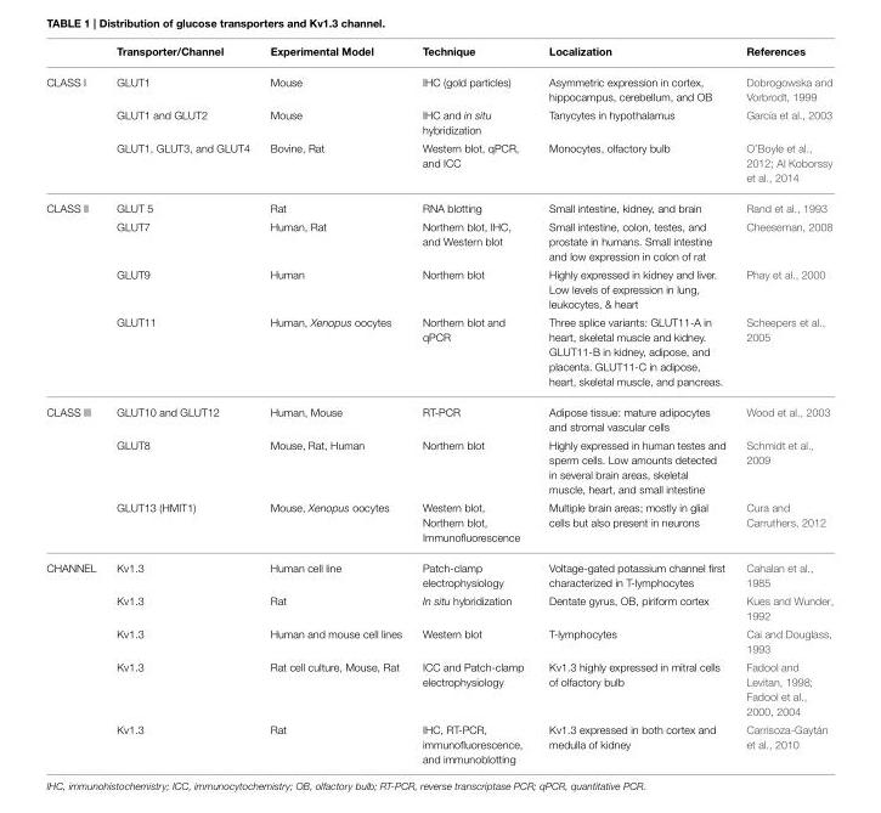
<table><thead><tr><td></td><td>Transporter/Channel</td><td>Experimental Model</td><td>Technique</td><td>Localization</td><td>References</td></tr></thead><tbody><tr><td rowspan="3">CLASS I</td><td>GLUT1</td><td>Mouse</td><td>IHC (gold particles)</td><td>Asymmetric expression in cortex, hippocampus, cerebellum, and OB</td><td>Dobrogowska and Vorbrodt, 1999</td></tr><tr><td>GLUT1 and GLUT2</td><td>Mouse</td><td>IHC and in situ hybridization</td><td>Tanycytes in hypothalamus</td><td>García et al., 2003</td></tr><tr><td>GLUT1, GLUT3, and GLUT4</td><td>Bovine, Rat</td><td>Western blot, qPCR, and ICC</td><td>Monocytes, olfactory bulb</td><td>O’Boyle et al., 2012; Al Koborssy et al., 2014</td></tr><tr><td rowspan="4">CLASS II</td><td>GLUT 5</td><td>Rat</td><td>RNA blotting</td><td>Small intestine, kidney, and brain</td><td>Rand et al., 1993</td></tr><tr><td>GLUT7</td><td>Human, Rat</td><td>Northern blot, IHC, and Western blot</td><td>Small intestine, colon, testes, and prostate in humans. Small intestine and low expression in colon of rat</td><td>Cheeseman, 2008</td></tr><tr><td>GLUT9</td><td>Human</td><td>Northern blot</td><td>Highly expressed in kidney and liver. Low levels of expression in lung, leukocytes, &amp; heart</td><td>Phay et al., 2000</td></tr><tr><td>GLUT11</td><td>Human, Xenopus oocytes</td><td>Northern blot and qPCR</td><td>Three splice variants: GLUT11-A in heart, skeletal muscle and kidney. GLUT11-B in kidney, adipose, and placenta. GLUT11-C in adipose, heart, skeletal muscle, and pancreas.</td><td>Scheepers et al., 2005</td></tr><tr><td rowspan="3">CLASS III</td><td>GLUT10 and GLUT12</td><td>Human, Mouse</td><td>RT-PCR</td><td>Adipose tissue: mature adipocytes and stromal vascular cells</td><td>Wood et al., 2003</td></tr><tr><td>GLUT8</td><td>Mouse, Rat, Human</td><td>Northern blot</td><td>Highly expressed in human testes and sperm cells. Low amounts detected in several brain areas, skeletal muscle, heart, and small intestine</td><td>Schmidt et al., 2009</td></tr><tr><td>GLUT13 (HMIT1)</td><td>Mouse, Xenopus oocytes</td><td>Western blot, Northern blot, Immunofluorescence</td><td>Multiple brain areas; mostly in glial cells but also present in neurons</td><td>Cura and Carruthers, 2012</td></tr><tr><td rowspan="5">CHANNEL</td><td>Kv1.3</td><td>Human cell line</td><td>Patch-clamp electrophysiology</td><td>Voltage-gated potassium channel first characterized in T-lymphocytes</td><td>Cahalan et al., 1985</td></tr><tr><td>Kv1.3</td><td>Rat</td><td>In situ hybridization</td><td>Dentate gyrus, OB, piriform cortex</td><td>Kues and Wunder, 1992</td></tr><tr><td>Kv1.3</td><td>Human and mouse cell lines</td><td>Western blot</td><td>T-lymphocytes</td><td>Cai and Douglass, 1993</td></tr><tr><td>Kv1.3</td><td>Rat cell culture, Mouse, Rat</td><td>ICC and Patch-clamp electrophysiology</td><td>Kv1.3 highly expressed in mitral cells of olfactory bulb</td><td>Fadool and Levitan, 1998; Fadool et al., 2000, 2004</td></tr><tr><td>Kv1.3</td><td>Rat</td><td>IHC, RT-PCR, immunofluorescence, and immunoblotting</td><td>Kv1.3 expressed in both cortex and medulla of kidney</td><td>Carrisoza-Gaytán et al., 2010</td></tr></tbody></table>